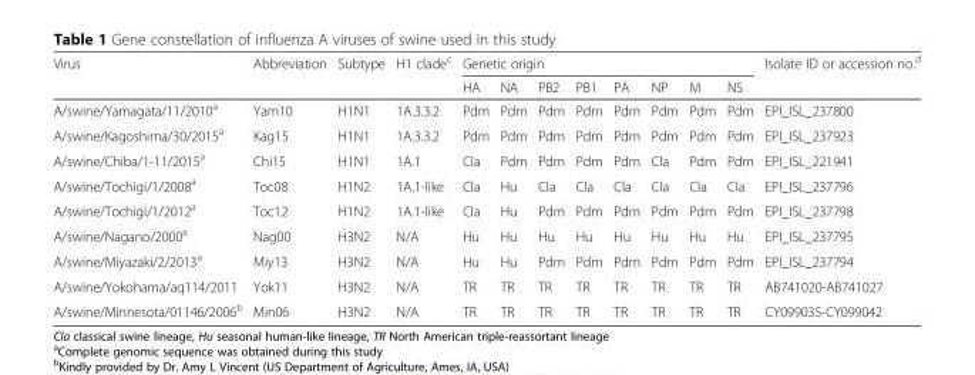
<table><thead><tr><td rowspan="2">Virus</td><td rowspan="2">Abbreviation</td><td rowspan="2">Subtype</td><td rowspan="2">H1 clade<sup>c</sup></td><td colspan="8">Genetic origin</td><td rowspan="2">Isolate ID or accession no.<sup>d</sup></td></tr><tr><td>HA</td><td>NA</td><td>PB2</td><td>PB1</td><td>PA</td><td>NP</td><td>M</td><td>NS</td></tr></thead><tbody><tr><td>A/swine/Yamagata/11/2010<sup>a</sup></td><td>Yam10</td><td>H1N1</td><td>1A.3.3.2</td><td>Pdm</td><td>Pdm</td><td>Pdm</td><td>Pdm</td><td>Pdm</td><td>Pdm</td><td>Pdm</td><td>Pdm</td><td>EPI_ISL_237800</td></tr><tr><td>A/swine/Kagoshima/30/2015<sup>a</sup></td><td>Kag15</td><td>H1N1</td><td>1A.3.3.2</td><td>Pdm</td><td>Pdm</td><td>Pdm</td><td>Pdm</td><td>Pdm</td><td>Pdm</td><td>Pdm</td><td>Pdm</td><td>EPI_ISL_237923</td></tr><tr><td>A/swine/Chiba/1-11/2015<sup>a</sup></td><td>Chi15</td><td>H1N1</td><td>1A.1</td><td>Cla</td><td>Pdm</td><td>Pdm</td><td>Pdm</td><td>Pdm</td><td>Cla</td><td>Pdm</td><td>Pdm</td><td>EPI_ISL_221941</td></tr><tr><td>A/swine/Tochigi/1/2008<sup>a</sup></td><td>Toc08</td><td>H1N2</td><td>1A.1-like</td><td>Cla</td><td>Hu</td><td>Cla</td><td>Cla</td><td>Cla</td><td>Cla</td><td>Cla</td><td>Cla</td><td>EPI_ISL_237796</td></tr><tr><td>A/swine/Tochigi/1/2012<sup>a</sup></td><td>Toc12</td><td>H1N2</td><td>1A.1-like</td><td>Cla</td><td>Hu</td><td>Pdm</td><td>Pdm</td><td>Pdm</td><td>Pdm</td><td>Pdm</td><td>Pdm</td><td>EPI_ISL_237798</td></tr><tr><td>A/swine/Nagano/2000<sup>a</sup></td><td>Nag00</td><td>H3N2</td><td>N/A</td><td>Hu</td><td>Hu</td><td>Hu</td><td>Hu</td><td>Hu</td><td>Hu</td><td>Hu</td><td>Hu</td><td>EPI_ISL_237795</td></tr><tr><td>A/swine/Miyazaki/2/2013<sup>a</sup></td><td>Miy13</td><td>H3N2</td><td>N/A</td><td>Hu</td><td>Hu</td><td>Pdm</td><td>Pdm</td><td>Pdm</td><td>Pdm</td><td>Pdm</td><td>Pdm</td><td>EPI_ISL_237794</td></tr><tr><td>A/swine/Yokohama/aq114/2011</td><td>Yok11</td><td>H3N2</td><td>N/A</td><td>TR</td><td>TR</td><td>TR</td><td>TR</td><td>TR</td><td>TR</td><td>TR</td><td>TR</td><td>AB741020-AB741027</td></tr><tr><td>A/swine/Minnesota/01146/2006<sup>b</sup></td><td>Min06</td><td>H3N2</td><td>N/A</td><td>TR</td><td>TR</td><td>TR</td><td>TR</td><td>TR</td><td>TR</td><td>TR</td><td>TR</td><td>CY099035-CY099042</td></tr></tbody></table>